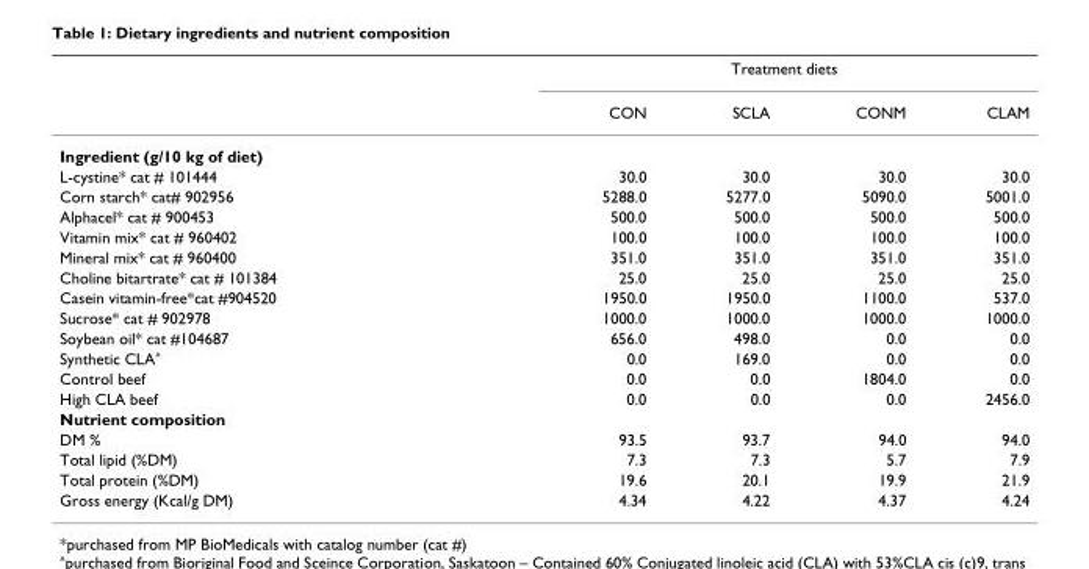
<table><thead><tr><td rowspan="2"></td><td colspan="4">Treatment diets</td></tr><tr><td>CON</td><td>SCLA</td><td>CONM</td><td>CLAM</td></tr></thead><tbody><tr><td colspan="5">Ingredient (g/10 kg of diet)</td></tr><tr><td>L-cystine* cat # 101444</td><td>30.0</td><td>30.0</td><td>30.0</td><td>30.0</td></tr><tr><td>Corn starch* cat# 902956</td><td>5288.0</td><td>5277.0</td><td>5090.0</td><td>5001.0</td></tr><tr><td>Alphacel* cat # 900453</td><td>500.0</td><td>500.0</td><td>500.0</td><td>500.0</td></tr><tr><td>Vitamin mix* cat # 960402</td><td>100.0</td><td>100.0</td><td>100.0</td><td>100.0</td></tr><tr><td>Mineral mix* cat # 960400</td><td>351.0</td><td>351.0</td><td>351.0</td><td>351.0</td></tr><tr><td>Choline bitartrate* cat # 101384</td><td>25.0</td><td>25.0</td><td>25.0</td><td>25.0</td></tr><tr><td>Casein vitamin-free*cat #904520</td><td>1950.0</td><td>1950.0</td><td>1100.0</td><td>537.0</td></tr><tr><td>Sucrose* cat # 902978</td><td>1000.0</td><td>1000.0</td><td>1000.0</td><td>1000.0</td></tr><tr><td>Soybean oil* cat #104687</td><td>656.0</td><td>498.0</td><td>0.0</td><td>0.0</td></tr><tr><td>Synthetic CLA<sup>^</sup></td><td>0.0</td><td>169.0</td><td>0.0</td><td>0.0</td></tr><tr><td>Control beef</td><td>0.0</td><td>0.0</td><td>1804.0</td><td>0.0</td></tr><tr><td>High CLA beef</td><td>0.0</td><td>0.0</td><td>0.0</td><td>2456.0</td></tr><tr><td colspan="5">Nutrient composition</td></tr><tr><td>DM %</td><td>93.5</td><td>93.7</td><td>94.0</td><td>94.0</td></tr><tr><td>Total lipid (%DM)</td><td>7.3</td><td>7.3</td><td>5.7</td><td>7.9</td></tr><tr><td>Total protein (%DM)</td><td>19.6</td><td>20.1</td><td>19.9</td><td>21.9</td></tr><tr><td>Gross energy (Kcal/g DM)</td><td>4.34</td><td>4.22</td><td>4.37</td><td>4.24</td></tr></tbody></table>